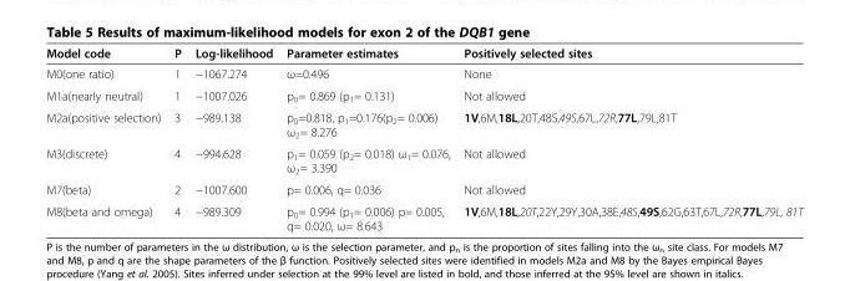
<table><thead><tr><td>Model code</td><td>P</td><td>Log-likelihood</td><td>Parameter estimates</td><td>Positively selected sites</td></tr></thead><tbody><tr><td>M0(one ratio)</td><td>1</td><td>−1067.274</td><td>ω=0.496</td><td>None</td></tr><tr><td>M1a(nearly neutral)</td><td>1</td><td>−1007.026</td><td>p<sub>0</sub>= 0.869 (p<sub>1</sub>= 0.131)</td><td>Not allowed</td></tr><tr><td>M2a(positive selection)</td><td>3</td><td>−989.138</td><td>p<sub>0</sub>=0.818, p<sub>1</sub>=0.176(p<sub>2</sub>= 0.006) ω<sub>2</sub>= 8.276</td><td>1V,6M,18L,20T,48S,49S,67L,72R,77L,79L,81T</td></tr><tr><td>M3(discrete)</td><td>4</td><td>−994.628</td><td>p<sub>1</sub>= 0.059 (p<sub>2</sub>= 0.018) ω<sub>1</sub>= 0.076, ω<sub>2</sub>= 3.390</td><td>Not allowed</td></tr><tr><td>M7(beta)</td><td>2</td><td>−1007.600</td><td>p= 0.006, q= 0.036</td><td>Not allowed</td></tr><tr><td>M8(beta and omega)</td><td>4</td><td>−989.309</td><td>p<sub>0</sub>= 0.994 (p<sub>1</sub>= 0.006) p= 0.005, q= 0.020, ω= 8.643</td><td>1V,6M,18L,20T,22Y,29Y,30A,38E,48S,49S,62G,63T,67L,72R,77L,79L, 81T</td></tr></tbody></table>